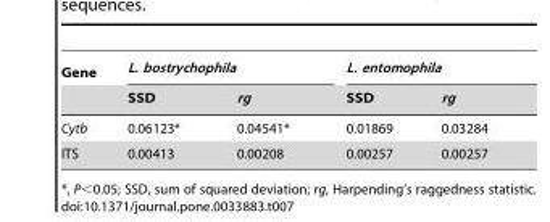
<table><thead><tr><td rowspan="2">Gene</td><td colspan="2">L. bostrychophila</td><td colspan="2">L. entomophila</td></tr><tr><td>SSD</td><td>rg</td><td>SSD</td><td>rg</td></tr></thead><tbody><tr><td>Cytb</td><td>0.06123*</td><td>0.04541*</td><td>0.01869</td><td>0.03284</td></tr><tr><td>ITS</td><td>0.00413</td><td>0.00208</td><td>0.00257</td><td>0.00257</td></tr></tbody></table>